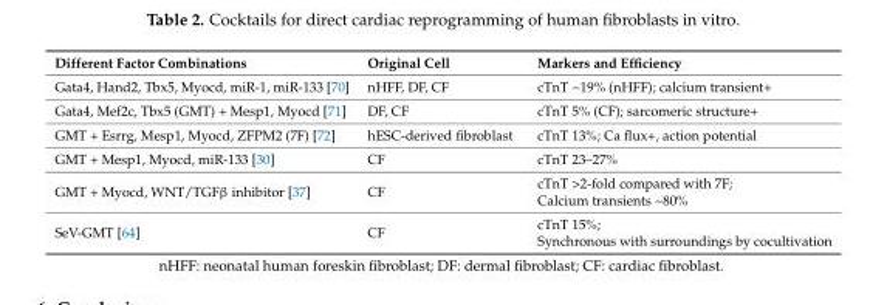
<table><thead><tr><td>Different Factor Combinations</td><td>Original Cell</td><td>Markers and Efficiency</td></tr></thead><tbody><tr><td>Gata4, Hand2, Tbx5, Myocd, miR-1, miR-133 [70]</td><td>nHFF, DF, CF</td><td>cTnT ~19% (nHFF); calcium transient+</td></tr><tr><td>Gata4, Mef2c, Tbx5 (GMT) + Mesp1, Myocd [71]</td><td>DF, CF</td><td>cTnT 5% (CF); sarcomeric structure+</td></tr><tr><td>GMT + Esrrg, Mesp1, Myocd, ZFPM2 (7F) [72]</td><td>hESC-derived fibroblast</td><td>cTnT 13%; Ca flux+, action potential</td></tr><tr><td>GMT + Mesp1, Myocd, miR-133 [30]</td><td>CF</td><td>cTnT 23–27%</td></tr><tr><td>GMT + Myocd, WNT/TGFβ inhibitor [37]</td><td>CF</td><td>cTnT &gt;2-fold compared with 7F; Calcium transients ~80%</td></tr><tr><td>SeV-GMT [64]</td><td>CF</td><td>cTnT 15%; Synchronous with surroundings by cocultivation</td></tr></tbody></table>